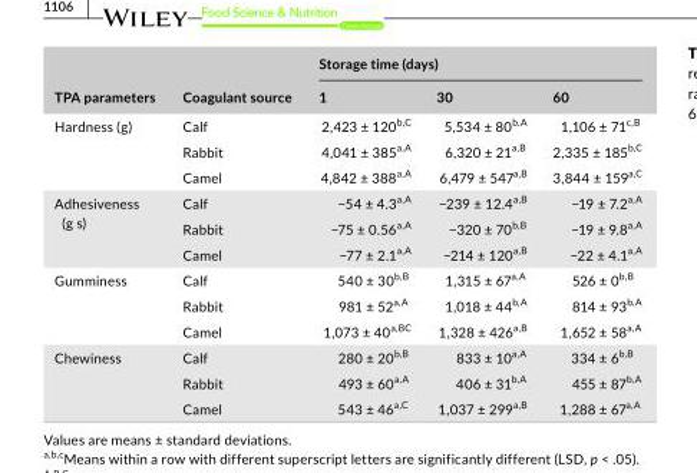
<table><thead><tr><td rowspan="2">TPA parameters</td><td rowspan="2">Coagulant source</td><td colspan="3">Storage time (days)</td></tr><tr><td>1</td><td>30</td><td>60</td></tr></thead><tbody><tr><td rowspan="3">Hardness (g)</td><td>Calf</td><td>2,423 ± 120<sup>b,C</sup></td><td>5,534 ± 80<sup>b,A</sup></td><td>1,106 ± 71<sup>c,B</sup></td></tr><tr><td>Rabbit</td><td>4,041 ± 385<sup>a,A</sup></td><td>6,320 ± 21<sup>a,B</sup></td><td>2,335 ± 185<sup>b,C</sup></td></tr><tr><td>Camel</td><td>4,842 ± 388<sup>a,A</sup></td><td>6,479 ± 547<sup>a,B</sup></td><td>3,844 ± 159<sup>a,C</sup></td></tr><tr><td rowspan="3">Adhesiveness (g s)</td><td>Calf</td><td>−54 ± 4.3<sup>a,A</sup></td><td>−239 ± 12.4<sup>a,B</sup></td><td>−19 ± 7.2<sup>a,A</sup></td></tr><tr><td>Rabbit</td><td>−75 ± 0.56<sup>a,A</sup></td><td>−320 ± 70<sup>b,B</sup></td><td>−19 ± 9.8<sup>a,A</sup></td></tr><tr><td>Camel</td><td>−77 ± 2.1<sup>a,A</sup></td><td>−214 ± 120<sup>a,B</sup></td><td>−22 ± 4.1<sup>a,A</sup></td></tr><tr><td rowspan="3">Gumminess</td><td>Calf</td><td>540 ± 30<sup>b,B</sup></td><td>1,315 ± 67<sup>a,A</sup></td><td>526 ± 0<sup>b,B</sup></td></tr><tr><td>Rabbit</td><td>981 ± 52<sup>a,A</sup></td><td>1,018 ± 44<sup>b,A</sup></td><td>814 ± 93<sup>b,A</sup></td></tr><tr><td>Camel</td><td>1,073 ± 40<sup>a,BC</sup></td><td>1,328 ± 426<sup>a,B</sup></td><td>1,652 ± 58<sup>a,A</sup></td></tr><tr><td rowspan="3">Chewiness</td><td>Calf</td><td>280 ± 20<sup>b,B</sup></td><td>833 ± 10<sup>a,A</sup></td><td>334 ± 6<sup>b,B</sup></td></tr><tr><td>Rabbit</td><td>493 ± 60<sup>a,A</sup></td><td>406 ± 31<sup>b,A</sup></td><td>455 ± 87<sup>b,A</sup></td></tr><tr><td>Camel</td><td>543 ± 46<sup>a,C</sup></td><td>1,037 ± 299<sup>a,B</sup></td><td>1,288 ± 67<sup>a,A</sup></td></tr></tbody></table>